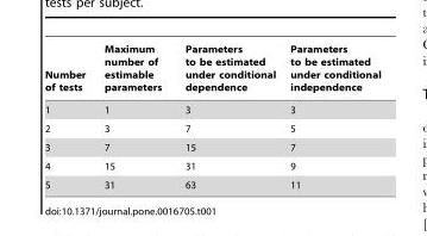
<table><thead><tr><td>Number of tests</td><td>Maximum number of estimable parameters</td><td>Parameters to be estimated under conditional dependence</td><td>Parameters to be estimated under conditional independence</td></tr></thead><tbody><tr><td>1</td><td>1</td><td>3</td><td>3</td></tr><tr><td>2</td><td>3</td><td>7</td><td>5</td></tr><tr><td>3</td><td>7</td><td>15</td><td>7</td></tr><tr><td>4</td><td>15</td><td>31</td><td>9</td></tr><tr><td>5</td><td>31</td><td>63</td><td>11</td></tr></tbody></table>